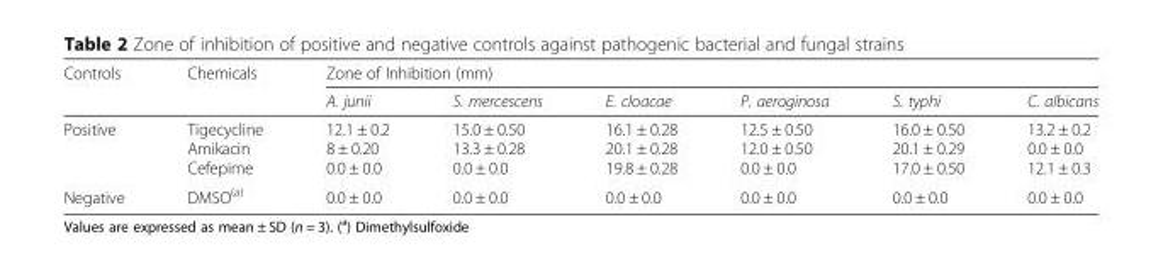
<table><thead><tr><td rowspan="2">Controls</td><td rowspan="2">Chemicals</td><td colspan="6">Zone of Inhibition (mm)</td></tr><tr><td>A. junii</td><td>S. mercescens</td><td>E. cloacae</td><td>P. aeroginosa</td><td>S. typhi</td><td>C. albicans</td></tr></thead><tbody><tr><td>Positive</td><td>Tigecycline Amikacin Cefepime</td><td>12.1 ± 0.2 8 ± 0.20 0.0 ± 0.0</td><td>15.0 ± 0.50 13.3 ± 0.28 0.0 ± 0.0</td><td>16.1 ± 0.28 20.1 ± 0.28 19.8 ± 0.28</td><td>12.5 ± 0.50 12.0 ± 0.50 0.0 ± 0.0</td><td>16.0 ± 0.50 20.1 ± 0.29 17.0 ± 0.50</td><td>13.2 ± 0.2 0.0 ± 0.0 12.1 ± 0.3</td></tr><tr><td>Negative</td><td>DMSO<sup>(a)</sup></td><td>0.0 ± 0.0</td><td>0.0 ± 0.0</td><td>0.0 ± 0.0</td><td>0.0 ± 0.0</td><td>0.0 ± 0.0</td><td>0.0 ± 0.0</td></tr></tbody></table>